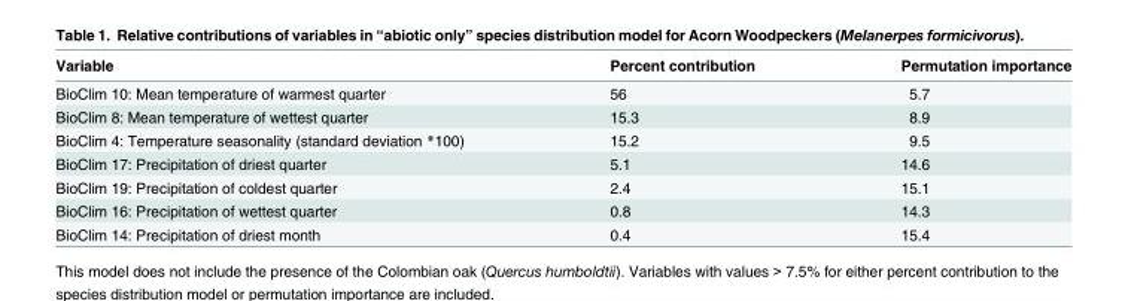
<table><thead><tr><td>Variable</td><td>Percent contribution</td><td>Permutation importance</td></tr></thead><tbody><tr><td>BioClim 10: Mean temperature of warmest quarter</td><td>56</td><td>5.7</td></tr><tr><td>BioClim 8: Mean temperature of wettest quarter</td><td>15.3</td><td>8.9</td></tr><tr><td>BioClim 4: Temperature seasonality (standard deviation *100)</td><td>15.2</td><td>9.5</td></tr><tr><td>BioClim 17: Precipitation of driest quarter</td><td>5.1</td><td>14.6</td></tr><tr><td>BioClim 19: Precipitation of coldest quarter</td><td>2.4</td><td>15.1</td></tr><tr><td>BioClim 16: Precipitation of wettest quarter</td><td>0.8</td><td>14.3</td></tr><tr><td>BioClim 14: Precipitation of driest month</td><td>0.4</td><td>15.4</td></tr></tbody></table>